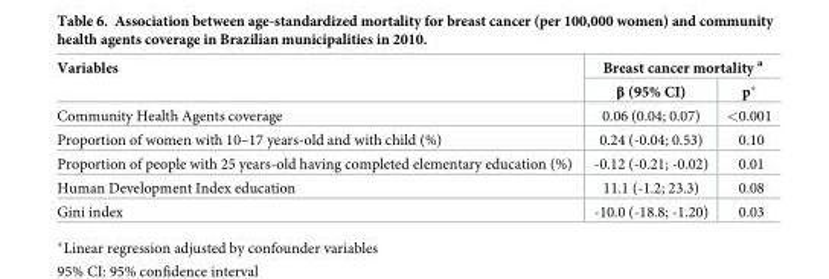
<table><thead><tr><td rowspan="2">Variables</td><td colspan="2">Breast cancer mortality <sup>a</sup></td></tr><tr><td>β (95% CI)</td><td>p*</td></tr></thead><tbody><tr><td>Community Health Agents coverage</td><td>0.06 (0.04; 0.07)</td><td>&lt;0.001</td></tr><tr><td>Proportion of women with 10–17 years-old and with child (%)</td><td>0.24 (-0.04; 0.53)</td><td>0.10</td></tr><tr><td>Proportion of people with 25 years-old having completed elementary education (%)</td><td>-0.12 (-0.21; -0.02)</td><td>0.01</td></tr><tr><td>Human Development Index education</td><td>11.1 (-1.2; 23.3)</td><td>0.08</td></tr><tr><td>Gini index</td><td>-10.0 (-18.8; -1.20)</td><td>0.03</td></tr></tbody></table>